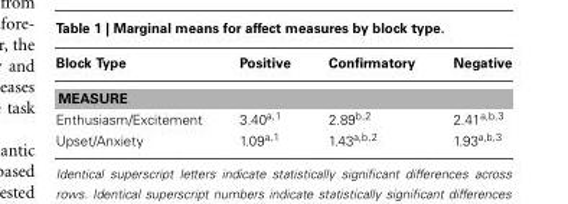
<table><thead><tr><td>Block Type</td><td>Positive</td><td>Confirmatory</td><td>Negative</td></tr></thead><tbody><tr><td colspan="4">MEASURE</td></tr><tr><td>Enthusiasm/Excitement</td><td>3.40<sup>a,1</sup></td><td>2.89<sup>b,2</sup></td><td>2.41<sup>a,b,3</sup></td></tr><tr><td>Upset/Anxiety</td><td>1.09<sup>a,1</sup></td><td>1.43<sup>a,b,2</sup></td><td>1.93<sup>a,b,3</sup></td></tr></tbody></table>